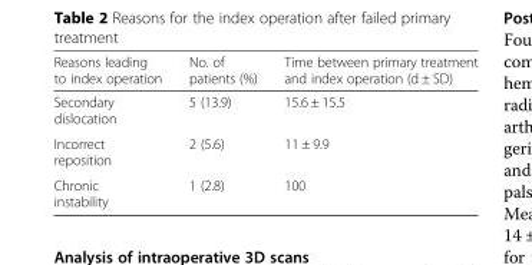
<table><thead><tr><td>Reasons leading to index operation</td><td>No. of patients (%)</td><td>Time between primary treatment and index operation (d ± SD)</td></tr></thead><tbody><tr><td>Secondary dislocation</td><td>5 (13.9)</td><td>15.6 ± 15.5</td></tr><tr><td>Incorrect reposition</td><td>2 (5.6)</td><td>11 ± 9.9</td></tr><tr><td>Chronic instability</td><td>1 (2.8)</td><td>100</td></tr></tbody></table>